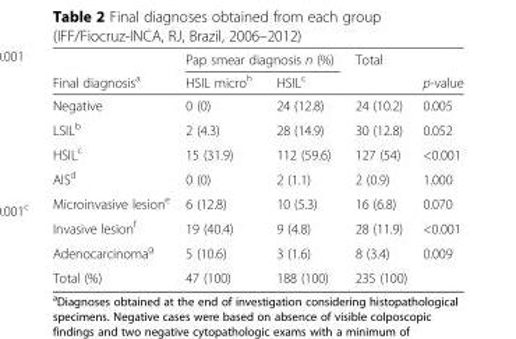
<table><thead><tr><td rowspan="2">Final diagnosis<sup>a</sup></td><td colspan="2">Pap smear diagnosis n (%)</td><td rowspan="2">Total</td><td rowspan="2">p-value</td></tr><tr><td>HSIL micro<sup>h</sup></td><td>HSIL<sup>c</sup></td></tr></thead><tbody><tr><td>Negative</td><td>0 (0)</td><td>24 (12.8)</td><td>24 (10.2)</td><td>0.005</td></tr><tr><td>LSIL<sup>b</sup></td><td>2 (4.3)</td><td>28 (14.9)</td><td>30 (12.8)</td><td>0.052</td></tr><tr><td>HSIL<sup>c</sup></td><td>15 (31.9)</td><td>112 (59.6)</td><td>127 (54)</td><td>&lt;0.001</td></tr><tr><td>AIS<sup>d</sup></td><td>0 (0)</td><td>2 (1.1)</td><td>2 (0.9)</td><td>1.000</td></tr><tr><td>Microinvasive lesion<sup>e</sup></td><td>6 (12.8)</td><td>10 (5.3)</td><td>16 (6.8)</td><td>0.070</td></tr><tr><td>Invasive lesion<sup>f</sup></td><td>19 (40.4)</td><td>9 (4.8)</td><td>28 (11.9)</td><td>&lt;0.001</td></tr><tr><td>Adenocarcinoma<sup>g</sup></td><td>5 (10.6)</td><td>3 (1.6)</td><td>8 (3.4)</td><td>0.009</td></tr><tr><td>Total (%)</td><td>47 (100)</td><td>188 (100)</td><td>235 (100)</td><td></td></tr></tbody></table>